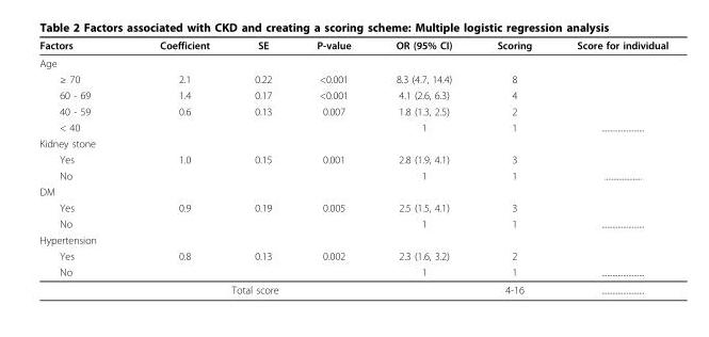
<table><thead><tr><td>Factors</td><td>Coefficient</td><td>SE</td><td>P-value</td><td>OR (95% CI)</td><td>Scoring</td><td>Score for individual</td></tr></thead><tbody><tr><td colspan="7">Age</td></tr><tr><td>≥ 70</td><td>2.1</td><td>0.22</td><td>&lt;0.001</td><td>8.3 (4.7, 14.4)</td><td>8</td><td></td></tr><tr><td>60 - 69</td><td>1.4</td><td>0.17</td><td>&lt;0.001</td><td>4.1 (2.6, 6.3)</td><td>4</td><td></td></tr><tr><td>40 - 59</td><td>0.6</td><td>0.13</td><td>0.007</td><td>1.8 (1.3, 2.5)</td><td>2</td><td></td></tr><tr><td>&lt; 40</td><td></td><td></td><td></td><td>1</td><td>1</td><td>........................</td></tr><tr><td colspan="7">Kidney stone</td></tr><tr><td>Yes</td><td>1.0</td><td>0.15</td><td>0.001</td><td>2.8 (1.9, 4.1)</td><td>3</td><td></td></tr><tr><td>No</td><td></td><td></td><td></td><td>1</td><td>1</td><td>.....................</td></tr><tr><td colspan="7">DM</td></tr><tr><td>Yes</td><td>0.9</td><td>0.19</td><td>0.005</td><td>2.5 (1.5, 4.1)</td><td>3</td><td></td></tr><tr><td>No</td><td></td><td></td><td></td><td>1</td><td>1</td><td>........................</td></tr><tr><td colspan="7">Hypertension</td></tr><tr><td>Yes</td><td>0.8</td><td>0.13</td><td>0.002</td><td>2.3 (1.6, 3.2)</td><td>2</td><td></td></tr><tr><td>No</td><td></td><td></td><td></td><td>1</td><td>1</td><td>........................</td></tr><tr><td colspan="5">Total score</td><td>4-16</td><td>........................</td></tr></tbody></table>